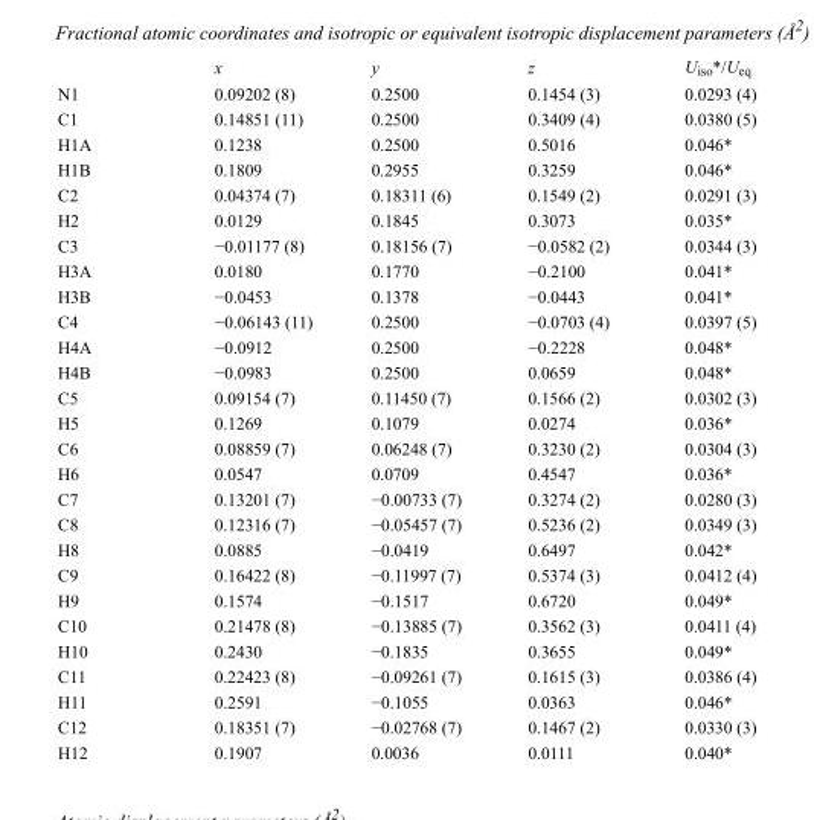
<table><thead><tr><td></td><td>x</td><td>y</td><td>z</td><td>U<sub>iso</sub>*/U<sub>eq</sub></td></tr></thead><tbody><tr><td>N1</td><td>0.09202 (8)</td><td>0.2500</td><td>0.1454 (3)</td><td>0.0293 (4)</td></tr><tr><td>C1</td><td>0.14851 (11)</td><td>0.2500</td><td>0.3409 (4)</td><td>0.0380 (5)</td></tr><tr><td>H1A</td><td>0.1238</td><td>0.2500</td><td>0.5016</td><td>0.046*</td></tr><tr><td>H1B</td><td>0.1809</td><td>0.2955</td><td>0.3259</td><td>0.046*</td></tr><tr><td>C2</td><td>0.04374 (7)</td><td>0.18311 (6)</td><td>0.1549 (2)</td><td>0.0291 (3)</td></tr><tr><td>H2</td><td>0.0129</td><td>0.1845</td><td>0.3073</td><td>0.035*</td></tr><tr><td>C3</td><td>−0.01177 (8)</td><td>0.18156 (7)</td><td>−0.0582 (2)</td><td>0.0344 (3)</td></tr><tr><td>H3A</td><td>0.0180</td><td>0.1770</td><td>−0.2100</td><td>0.041*</td></tr><tr><td>H3B</td><td>−0.0453</td><td>0.1378</td><td>−0.0443</td><td>0.041*</td></tr><tr><td>C4</td><td>−0.06143 (11)</td><td>0.2500</td><td>−0.0703 (4)</td><td>0.0397 (5)</td></tr><tr><td>H4A</td><td>−0.0912</td><td>0.2500</td><td>−0.2228</td><td>0.048*</td></tr><tr><td>H4B</td><td>−0.0983</td><td>0.2500</td><td>0.0659</td><td>0.048*</td></tr><tr><td>C5</td><td>0.09154 (7)</td><td>0.11450 (7)</td><td>0.1566 (2)</td><td>0.0302 (3)</td></tr><tr><td>H5</td><td>0.1269</td><td>0.1079</td><td>0.0274</td><td>0.036*</td></tr><tr><td>C6</td><td>0.08859 (7)</td><td>0.06248 (7)</td><td>0.3230 (2)</td><td>0.0304 (3)</td></tr><tr><td>H6</td><td>0.0547</td><td>0.0709</td><td>0.4547</td><td>0.036*</td></tr><tr><td>C7</td><td>0.13201 (7)</td><td>−0.00733 (7)</td><td>0.3274 (2)</td><td>0.0280 (3)</td></tr><tr><td>C8</td><td>0.12316 (7)</td><td>−0.05457 (7)</td><td>0.5236 (2)</td><td>0.0349 (3)</td></tr><tr><td>H8</td><td>0.0885</td><td>−0.0419</td><td>0.6497</td><td>0.042*</td></tr><tr><td>C9</td><td>0.16422 (8)</td><td>−0.11997 (7)</td><td>0.5374 (3)</td><td>0.0412 (4)</td></tr><tr><td>H9</td><td>0.1574</td><td>−0.1517</td><td>0.6720</td><td>0.049*</td></tr><tr><td>C10</td><td>0.21478 (8)</td><td>−0.13885 (7)</td><td>0.3562 (3)</td><td>0.0411 (4)</td></tr><tr><td>H10</td><td>0.2430</td><td>−0.1835</td><td>0.3655</td><td>0.049*</td></tr><tr><td>C11</td><td>0.22423 (8)</td><td>−0.09261 (7)</td><td>0.1615 (3)</td><td>0.0386 (4)</td></tr><tr><td>H11</td><td>0.2591</td><td>−0.1055</td><td>0.0363</td><td>0.046*</td></tr><tr><td>C12</td><td>0.18351 (7)</td><td>−0.02768 (7)</td><td>0.1467 (2)</td><td>0.0330 (3)</td></tr><tr><td>H12</td><td>0.1907</td><td>0.0036</td><td>0.0111</td><td>0.040*</td></tr></tbody></table>